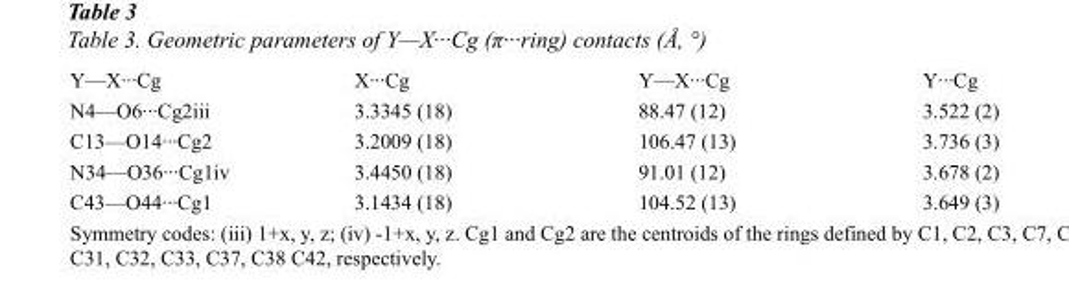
<table><tbody><tr><td>Y—X···Cg</td><td>X···Cg</td><td>Y—X···Cg</td><td>Y···Cg</td></tr><tr><td>N4—O6···Cg2iii</td><td>3.3345 (18)</td><td>88.47 (12)</td><td>3.522 (2)</td></tr><tr><td>C13—O14···Cg2</td><td>3.2009 (18)</td><td>106.47 (13)</td><td>3.736 (3)</td></tr><tr><td>N34—O36···Cg1iv</td><td>3.4450 (18)</td><td>91.01 (12)</td><td>3.678 (2)</td></tr><tr><td>C43—O44···Cg1</td><td>3.1434 (18)</td><td>104.52 (13)</td><td>3.649 (3)</td></tr></tbody></table>